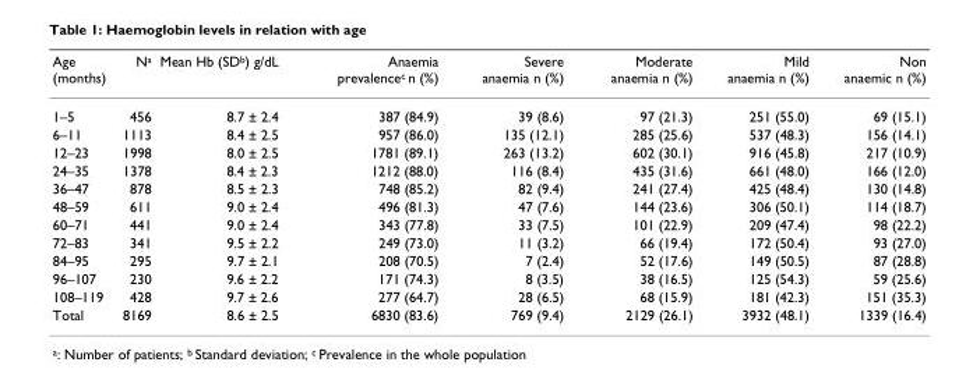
<table><thead><tr><td>Age (months)</td><td>N<sup>a</sup></td><td>Mean Hb (SD<sup>b</sup>) g/dL</td><td>Anaemia prevalence<sup>c</sup> n (%)</td><td>Severe anaemia n (%)</td><td>Moderate anaemia n (%)</td><td>Mild anaemia n (%)</td><td>Non anaemic n (%)</td></tr></thead><tbody><tr><td>1–5</td><td>456</td><td>8.7 ± 2.4</td><td>387 (84.9)</td><td>39 (8.6)</td><td>97 (21.3)</td><td>251 (55.0)</td><td>69 (15.1)</td></tr><tr><td>6–11</td><td>1113</td><td>8.4 ± 2.5</td><td>957 (86.0)</td><td>135 (12.1)</td><td>285 (25.6)</td><td>537 (48.3)</td><td>156 (14.1)</td></tr><tr><td>12–23</td><td>1998</td><td>8.0 ± 2.5</td><td>1781 (89.1)</td><td>263 (13.2)</td><td>602 (30.1)</td><td>916 (45.8)</td><td>217 (10.9)</td></tr><tr><td>24–35</td><td>1378</td><td>8.4 ± 2.3</td><td>1212 (88.0)</td><td>116 (8.4)</td><td>435 (31.6)</td><td>661 (48.0)</td><td>166 (12.0)</td></tr><tr><td>36–47</td><td>878</td><td>8.5 ± 2.3</td><td>748 (85.2)</td><td>82 (9.4)</td><td>241 (27.4)</td><td>425 (48.4)</td><td>130 (14.8)</td></tr><tr><td>48–59</td><td>611</td><td>9.0 ± 2.4</td><td>496 (81.3)</td><td>47 (7.6)</td><td>144 (23.6)</td><td>306 (50.1)</td><td>114 (18.7)</td></tr><tr><td>60–71</td><td>441</td><td>9.0 ± 2.4</td><td>343 (77.8)</td><td>33 (7.5)</td><td>101 (22.9)</td><td>209 (47.4)</td><td>98 (22.2)</td></tr><tr><td>72–83</td><td>341</td><td>9.5 ± 2.2</td><td>249 (73.0)</td><td>11 (3.2)</td><td>66 (19.4)</td><td>172 (50.4)</td><td>93 (27.0)</td></tr><tr><td>84–95</td><td>295</td><td>9.7 ± 2.1</td><td>208 (70.5)</td><td>7 (2.4)</td><td>52 (17.6)</td><td>149 (50.5)</td><td>87 (28.8)</td></tr><tr><td>96–107</td><td>230</td><td>9.6 ± 2.2</td><td>171 (74.3)</td><td>8 (3.5)</td><td>38 (16.5)</td><td>125 (54.3)</td><td>59 (25.6)</td></tr><tr><td>108–119</td><td>428</td><td>9.7 ± 2.6</td><td>277 (64.7)</td><td>28 (6.5)</td><td>68 (15.9)</td><td>181 (42.3)</td><td>151 (35.3)</td></tr><tr><td>Total</td><td>8169</td><td>8.6 ± 2.5</td><td>6830 (83.6)</td><td>769 (9.4)</td><td>2129 (26.1)</td><td>3932 (48.1)</td><td>1339 (16.4)</td></tr></tbody></table>